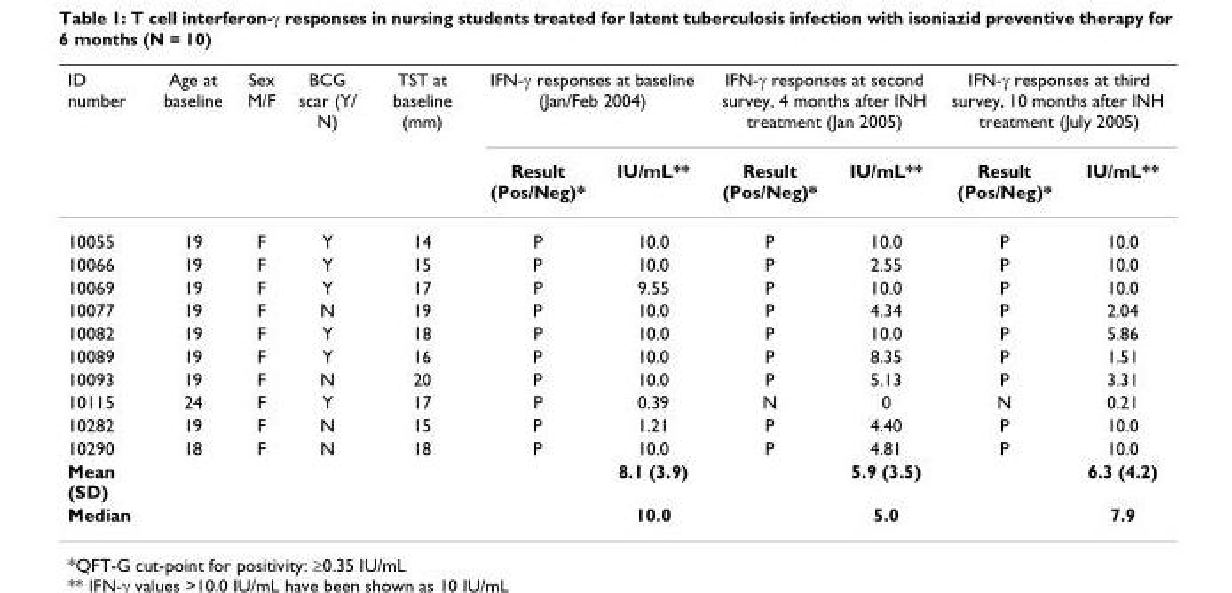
<table><thead><tr><td rowspan="2">ID number</td><td rowspan="2">Age at baseline</td><td rowspan="2">Sex M/F</td><td rowspan="2">BCG scar (Y/ N)</td><td rowspan="2">TST at baseline (mm)</td><td colspan="2">IFN-γ responses at baseline (Jan/Feb 2004)</td><td colspan="2">IFN-γ responses at second survey, 4 months after INH treatment (Jan 2005)</td><td colspan="2">IFN-γ responses at third survey, 10 months after INH treatment (July 2005)</td></tr><tr><td>Result (Pos/Neg)*</td><td>IU/mL**</td><td>Result (Pos/Neg)*</td><td>IU/mL**</td><td>Result (Pos/Neg)*</td><td>IU/mL**</td></tr></thead><tbody><tr><td>10055</td><td>19</td><td>F</td><td>Y</td><td>14</td><td>P</td><td>10.0</td><td>P</td><td>10.0</td><td>P</td><td>10.0</td></tr><tr><td>10066</td><td>19</td><td>F</td><td>Y</td><td>15</td><td>P</td><td>10.0</td><td>P</td><td>2.55</td><td>P</td><td>10.0</td></tr><tr><td>10069</td><td>19</td><td>F</td><td>Y</td><td>17</td><td>P</td><td>9.55</td><td>P</td><td>10.0</td><td>P</td><td>10.0</td></tr><tr><td>10077</td><td>19</td><td>F</td><td>N</td><td>19</td><td>P</td><td>10.0</td><td>P</td><td>4.34</td><td>P</td><td>2.04</td></tr><tr><td>10082</td><td>19</td><td>F</td><td>Y</td><td>18</td><td>P</td><td>10.0</td><td>P</td><td>10.0</td><td>P</td><td>5.86</td></tr><tr><td>10089</td><td>19</td><td>F</td><td>Y</td><td>16</td><td>P</td><td>10.0</td><td>P</td><td>8.35</td><td>P</td><td>1.51</td></tr><tr><td>10093</td><td>19</td><td>F</td><td>N</td><td>20</td><td>P</td><td>10.0</td><td>P</td><td>5.13</td><td>P</td><td>3.31</td></tr><tr><td>10115</td><td>24</td><td>F</td><td>Y</td><td>17</td><td>P</td><td>0.39</td><td>N</td><td>0</td><td>N</td><td>0.21</td></tr><tr><td>10282</td><td>19</td><td>F</td><td>N</td><td>15</td><td>P</td><td>1.21</td><td>P</td><td>4.40</td><td>P</td><td>10.0</td></tr><tr><td>10290</td><td>18</td><td>F</td><td>N</td><td>18</td><td>P</td><td>10.0</td><td>P</td><td>4.81</td><td>P</td><td>10.0</td></tr><tr><td>Mean (SD)</td><td></td><td></td><td></td><td></td><td></td><td>8.1 (3.9)</td><td></td><td>5.9 (3.5)</td><td></td><td>6.3 (4.2)</td></tr><tr><td>Median</td><td></td><td></td><td></td><td></td><td></td><td>10.0</td><td></td><td>5.0</td><td></td><td>7.9</td></tr></tbody></table>